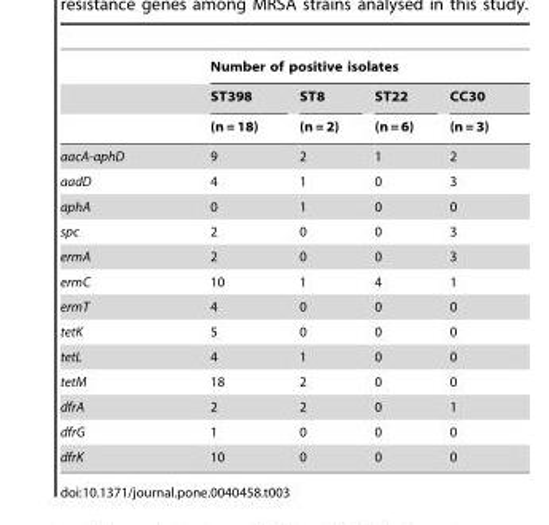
<table><thead><tr><td rowspan="3"></td><td colspan="4">Number of positive isolates</td></tr><tr><td rowspan="2">ST398 (n = 18)</td><td rowspan="2">ST8 (n = 2)</td><td rowspan="2">ST22 (n = 6)</td><td rowspan="2">CC30 (n = 3)</td></tr><tr></tr></thead><tbody><tr><td>aacA-aphD</td><td>9</td><td>2</td><td>1</td><td>2</td></tr><tr><td>aadD</td><td>4</td><td>1</td><td>0</td><td>3</td></tr><tr><td>aphA</td><td>0</td><td>1</td><td>0</td><td>0</td></tr><tr><td>spc</td><td>2</td><td>0</td><td>0</td><td>3</td></tr><tr><td>ermA</td><td>2</td><td>0</td><td>0</td><td>3</td></tr><tr><td>ermC</td><td>10</td><td>1</td><td>4</td><td>1</td></tr><tr><td>ermT</td><td>4</td><td>0</td><td>0</td><td>0</td></tr><tr><td>tetK</td><td>5</td><td>0</td><td>0</td><td>0</td></tr><tr><td>tetL</td><td>4</td><td>1</td><td>0</td><td>0</td></tr><tr><td>tetM</td><td>18</td><td>2</td><td>0</td><td>0</td></tr><tr><td>dfrA</td><td>2</td><td>2</td><td>0</td><td>1</td></tr><tr><td>dfrG</td><td>1</td><td>0</td><td>0</td><td>0</td></tr><tr><td>dfrK</td><td>10</td><td>0</td><td>0</td><td>0</td></tr></tbody></table>